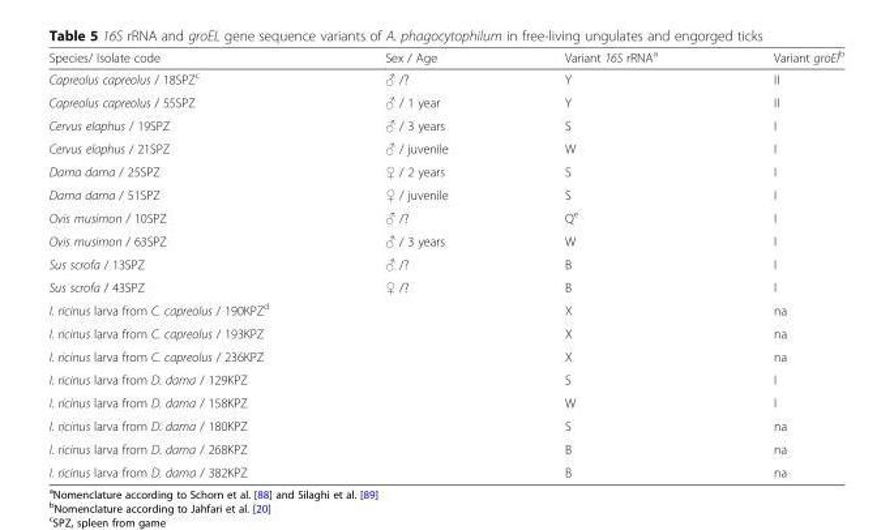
<table><thead><tr><td>Species/ Isolate code</td><td>Sex / Age</td><td>Variant 16S rRNA<sup>a</sup></td><td>Variant groEl<sup>b</sup></td></tr></thead><tbody><tr><td>Capreolus capreolus / 18SPZ<sup>c</sup></td><td>♂ /?</td><td>Y</td><td>II</td></tr><tr><td>Capreolus capreolus / 55SPZ</td><td>♂ / 1 year</td><td>Y</td><td>II</td></tr><tr><td>Cervus elaphus / 19SPZ</td><td>♂ / 3 years</td><td>S</td><td>I</td></tr><tr><td>Cervus elaphus / 21SPZ</td><td>♂ / juvenile</td><td>W</td><td>I</td></tr><tr><td>Dama dama / 25SPZ</td><td>♀ / 2 years</td><td>S</td><td>I</td></tr><tr><td>Dama dama / 51SPZ</td><td>♀ / juvenile</td><td>S</td><td>I</td></tr><tr><td>Ovis musimon / 10SPZ</td><td>♂ /?</td><td>Q<sup>e</sup></td><td>I</td></tr><tr><td>Ovis musimon / 63SPZ</td><td>♂ / 3 years</td><td>W</td><td>I</td></tr><tr><td>Sus scrofa / 13SPZ</td><td>♂ /?</td><td>B</td><td>I</td></tr><tr><td>Sus scrofa / 43SPZ</td><td>♀ /?</td><td>B</td><td>I</td></tr><tr><td>I. ricinus larva from C. capreolus / 190KPZ<sup>d</sup></td><td></td><td>X</td><td>na</td></tr><tr><td>I. ricinus larva from C. capreolus / 193KPZ</td><td></td><td>X</td><td>na</td></tr><tr><td>I. ricinus larva from C. capreolus / 236KPZ</td><td></td><td>X</td><td>na</td></tr><tr><td>I. ricinus larva from D. dama / 129KPZ</td><td></td><td>S</td><td>I</td></tr><tr><td>I. ricinus larva from D. dama / 158KPZ</td><td></td><td>W</td><td>I</td></tr><tr><td>I. ricinus larva from D. dama / 180KPZ</td><td></td><td>S</td><td>na</td></tr><tr><td>I. ricinus larva from D. dama / 268KPZ</td><td></td><td>B</td><td>na</td></tr><tr><td>I. ricinus larva from D. dama / 382KPZ</td><td></td><td>B</td><td>na</td></tr></tbody></table>